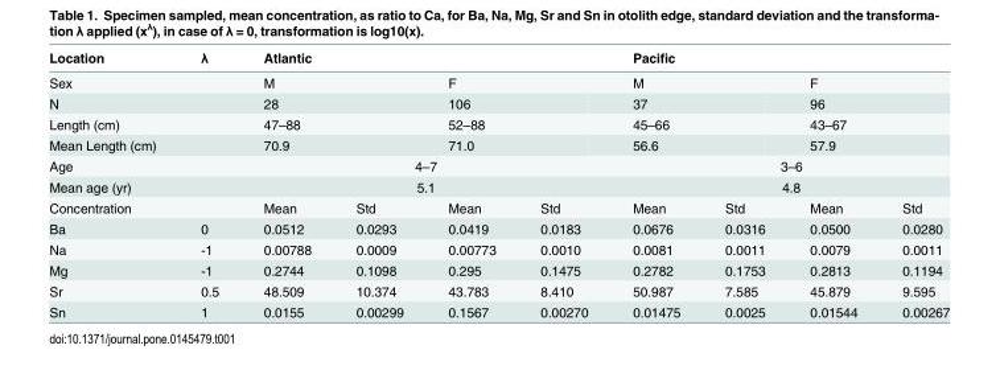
<table><thead><tr><td>Location</td><td>λ</td><td colspan="4">Atlantic</td><td colspan="4">Pacific</td></tr></thead><tbody><tr><td>Sex</td><td></td><td colspan="2">M</td><td colspan="2">F</td><td colspan="2">M</td><td colspan="2">F</td></tr><tr><td>N</td><td></td><td colspan="2">28</td><td colspan="2">106</td><td colspan="2">37</td><td colspan="2">96</td></tr><tr><td>Length (cm)</td><td></td><td colspan="2">47–88</td><td colspan="2">52–88</td><td colspan="2">45–66</td><td colspan="2">43–67</td></tr><tr><td>Mean Length (cm)</td><td></td><td colspan="2">70.9</td><td colspan="2">71.0</td><td colspan="2">56.6</td><td colspan="2">57.9</td></tr><tr><td>Age</td><td></td><td colspan="4">4–7</td><td colspan="4">3–6</td></tr><tr><td>Mean age (yr)</td><td></td><td colspan="4">5.1</td><td colspan="4">4.8</td></tr><tr><td>Concentration</td><td></td><td>Mean</td><td>Std</td><td>Mean</td><td>Std</td><td>Mean</td><td>Std</td><td>Mean</td><td>Std</td></tr><tr><td>Ba</td><td>0</td><td>0.0512</td><td>0.0293</td><td>0.0419</td><td>0.0183</td><td>0.0676</td><td>0.0316</td><td>0.0500</td><td>0.0280</td></tr><tr><td>Na</td><td>-1</td><td>0.00788</td><td>0.0009</td><td>0.00773</td><td>0.0010</td><td>0.0081</td><td>0.0011</td><td>0.0079</td><td>0.0011</td></tr><tr><td>Mg</td><td>-1</td><td>0.2744</td><td>0.1098</td><td>0.295</td><td>0.1475</td><td>0.2782</td><td>0.1753</td><td>0.2813</td><td>0.1194</td></tr><tr><td>Sr</td><td>0.5</td><td>48.509</td><td>10.374</td><td>43.783</td><td>8.410</td><td>50.987</td><td>7.585</td><td>45.879</td><td>9.595</td></tr><tr><td>Sn</td><td>1</td><td>0.0155</td><td>0.00299</td><td>0.1567</td><td>0.00270</td><td>0.01475</td><td>0.0025</td><td>0.01544</td><td>0.00267</td></tr></tbody></table>